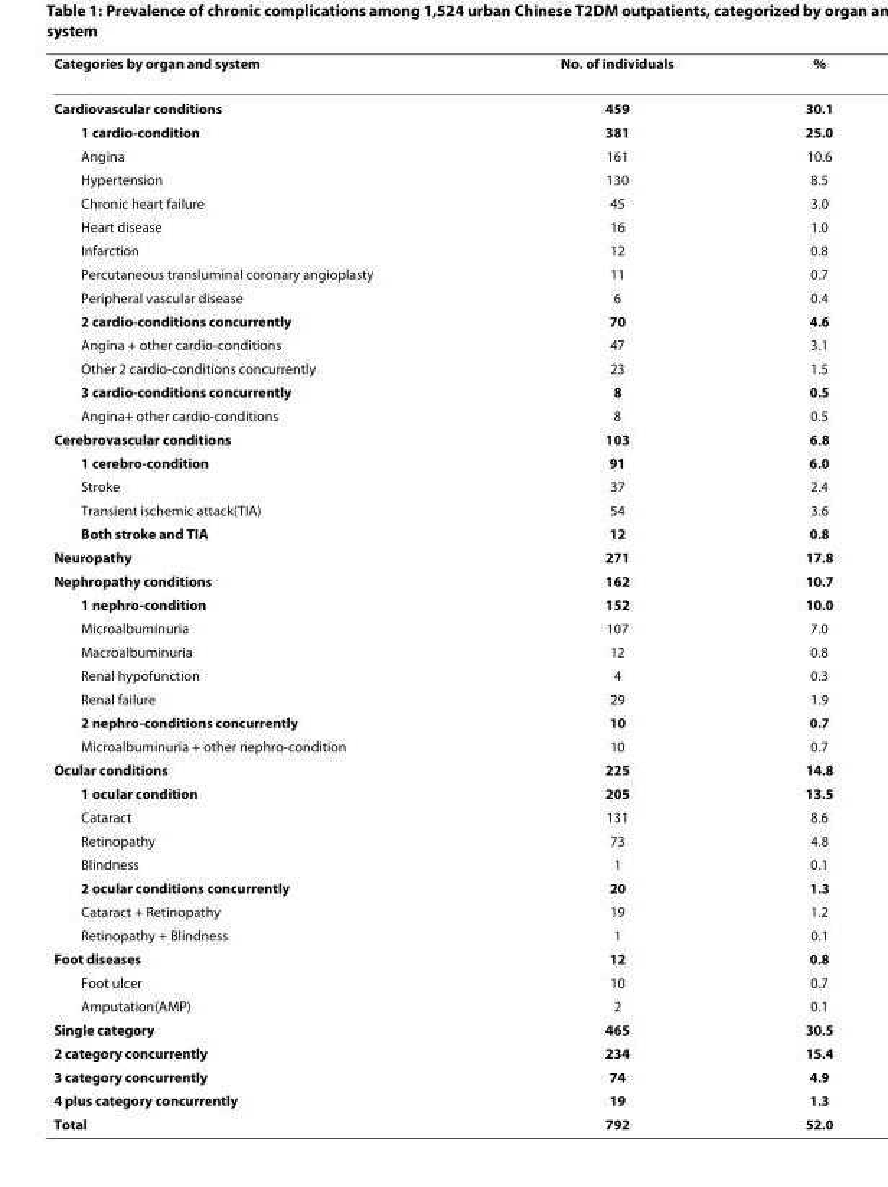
<table><thead><tr><td>Categories by organ and system</td><td>No. of individuals</td><td>%</td></tr></thead><tbody><tr><td>Cardiovascular conditions</td><td>459</td><td>30.1</td></tr><tr><td>1 cardio-condition</td><td>381</td><td>25.0</td></tr><tr><td>Angina</td><td>161</td><td>10.6</td></tr><tr><td>Hypertension</td><td>130</td><td>8.5</td></tr><tr><td>Chronic heart failure</td><td>45</td><td>3.0</td></tr><tr><td>Heart disease</td><td>16</td><td>1.0</td></tr><tr><td>Infarction</td><td>12</td><td>0.8</td></tr><tr><td>Percutaneous transluminal coronary angioplasty</td><td>11</td><td>0.7</td></tr><tr><td>Peripheral vascular disease</td><td>6</td><td>0.4</td></tr><tr><td>2 cardio-conditions concurrently</td><td>70</td><td>4.6</td></tr><tr><td>Angina + other cardio-conditions</td><td>47</td><td>3.1</td></tr><tr><td>Other 2 cardio-conditions concurrently</td><td>23</td><td>1.5</td></tr><tr><td>3 cardio-conditions concurrently</td><td>8</td><td>0.5</td></tr><tr><td>Angina+ other cardio-conditions</td><td>8</td><td>0.5</td></tr><tr><td>Cerebrovascular conditions</td><td>103</td><td>6.8</td></tr><tr><td>1 cerebro-condition</td><td>91</td><td>6.0</td></tr><tr><td>Stroke</td><td>37</td><td>2.4</td></tr><tr><td>Transient ischemic attack(TIA)</td><td>54</td><td>3.6</td></tr><tr><td>Both stroke and TIA</td><td>12</td><td>0.8</td></tr><tr><td>Neuropathy</td><td>271</td><td>17.8</td></tr><tr><td>Nephropathy conditions</td><td>162</td><td>10.7</td></tr><tr><td>1 nephro-condition</td><td>152</td><td>10.0</td></tr><tr><td>Microalbuminuria</td><td>107</td><td>7.0</td></tr><tr><td>Macroalbuminuria</td><td>12</td><td>0.8</td></tr><tr><td>Renal hypofunction</td><td>4</td><td>0.3</td></tr><tr><td>Renal failure</td><td>29</td><td>1.9</td></tr><tr><td>2 nephro-conditions concurrently</td><td>10</td><td>0.7</td></tr><tr><td>Microalbuminuria + other nephro-condition</td><td>10</td><td>0.7</td></tr><tr><td>Ocular conditions</td><td>225</td><td>14.8</td></tr><tr><td>1 ocular condition</td><td>205</td><td>13.5</td></tr><tr><td>Cataract</td><td>131</td><td>8.6</td></tr><tr><td>Retinopathy</td><td>73</td><td>4.8</td></tr><tr><td>Blindness</td><td>1</td><td>0.1</td></tr><tr><td>2 ocular conditions concurrently</td><td>20</td><td>1.3</td></tr><tr><td>Cataract + Retinopathy</td><td>19</td><td>1.2</td></tr><tr><td>Retinopathy + Blindness</td><td>1</td><td>0.1</td></tr><tr><td>Foot diseases</td><td>12</td><td>0.8</td></tr><tr><td>Foot ulcer</td><td>10</td><td>0.7</td></tr><tr><td>Amputation(AMP)</td><td>2</td><td>0.1</td></tr><tr><td>Single category</td><td>465</td><td>30.5</td></tr><tr><td>2 category concurrently</td><td>234</td><td>15.4</td></tr><tr><td>3 category concurrently</td><td>74</td><td>4.9</td></tr><tr><td>4 plus category concurrently</td><td>19</td><td>1.3</td></tr><tr><td>Total</td><td>792</td><td>52.0</td></tr></tbody></table>